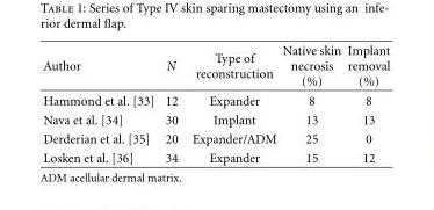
<table><thead><tr><td>Author</td><td>N</td><td>Type of reconstruction</td><td>Native skin necrosis (%)</td><td>Implant removal (%)</td></tr></thead><tbody><tr><td>Hammond et al. [33]</td><td>12</td><td>Expander</td><td>8</td><td>8</td></tr><tr><td>Nava et al. [34]</td><td>30</td><td>Implant</td><td>13</td><td>13</td></tr><tr><td>Derderian et al. [35]</td><td>20</td><td>Expander/ADM</td><td>25</td><td>0</td></tr><tr><td>Losken et al. [36]</td><td>34</td><td>Expander</td><td>15</td><td>12</td></tr></tbody></table>